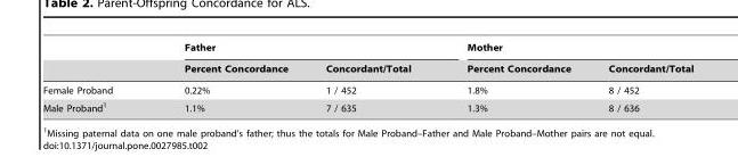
<table><thead><tr><td rowspan="2"></td><td colspan="2">Father</td><td colspan="2">Mother</td></tr><tr><td>Percent Concordance</td><td>Concordant/Total</td><td>Percent Concordance</td><td>Concordant/Total</td></tr></thead><tbody><tr><td>Female Proband</td><td>0.22%</td><td>1 / 452</td><td>1.8%</td><td>8 / 452</td></tr><tr><td>Male Proband<sup>1</sup></td><td>1.1%</td><td>7 / 635</td><td>1.3%</td><td>8 / 636</td></tr></tbody></table>